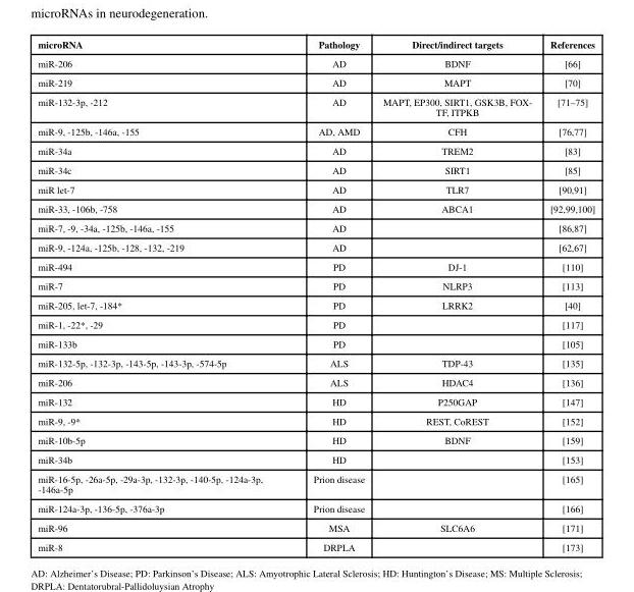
<table><thead><tr><td>microRNA</td><td>Pathology</td><td>Direct/indirect targets</td><td>References</td></tr></thead><tbody><tr><td>miR-206</td><td>AD</td><td>BDNF</td><td>[66]</td></tr><tr><td>miR-219</td><td>AD</td><td>MAPT</td><td>[70]</td></tr><tr><td>miR-132-3p, -212</td><td>AD</td><td>MAPT, EP300, SIRT1, GSK3B, FOX- TF, ITPKB</td><td>[71–75]</td></tr><tr><td>miR-9, -125b, -146a, -155</td><td>AD, AMD</td><td>CFH</td><td>[76,77]</td></tr><tr><td>miR-34a</td><td>AD</td><td>TREM2</td><td>[83]</td></tr><tr><td>miR-34c</td><td>AD</td><td>SIRT1</td><td>[85]</td></tr><tr><td>miR let-7</td><td>AD</td><td>TLR7</td><td>[90,91]</td></tr><tr><td>miR-33, -106b, -758</td><td>AD</td><td>ABCA1</td><td>[92,99,100]</td></tr><tr><td>miR-7, -9, -34a, -125b, -146a, -155</td><td>AD</td><td></td><td>[86,87]</td></tr><tr><td>miR-9, -124a, -125b, -128, -132, -219</td><td>AD</td><td></td><td>[62,67]</td></tr><tr><td>miR-494</td><td>PD</td><td>DJ-1</td><td>[110]</td></tr><tr><td>miR-7</td><td>PD</td><td>NLRP3</td><td>[113]</td></tr><tr><td>miR-205, let-7, -184*</td><td>PD</td><td>LRRK2</td><td>[40]</td></tr><tr><td>miR-1, -22*, -29</td><td>PD</td><td></td><td>[117]</td></tr><tr><td>miR-133b</td><td>PD</td><td></td><td>[105]</td></tr><tr><td>miR-132-5p, -132-3p, -143-5p, -143-3p, -574-5p</td><td>ALS</td><td>TDP-43</td><td>[135]</td></tr><tr><td>miR-206</td><td>ALS</td><td>HDAC4</td><td>[136]</td></tr><tr><td>miR-132</td><td>HD</td><td>P250GAP</td><td>[147]</td></tr><tr><td>miR-9, -9*</td><td>HD</td><td>REST, CoREST</td><td>[152]</td></tr><tr><td>miR-10b-5p</td><td>HD</td><td>BDNF</td><td>[159]</td></tr><tr><td>miR-34b</td><td>HD</td><td></td><td>[153]</td></tr><tr><td>miR-16-5p, -26a-5p, -29a-3p, -132-3p, -140-5p, -124a-3p, -146a-5p</td><td>Prion disease</td><td></td><td>[165]</td></tr><tr><td>miR-124a-3p, -136-5p, -376a-3p</td><td>Prion disease</td><td></td><td>[166]</td></tr><tr><td>miR-96</td><td>MSA</td><td>SLC6A6</td><td>[171]</td></tr><tr><td>miR-8</td><td>DRPLA</td><td></td><td>[173]</td></tr></tbody></table>